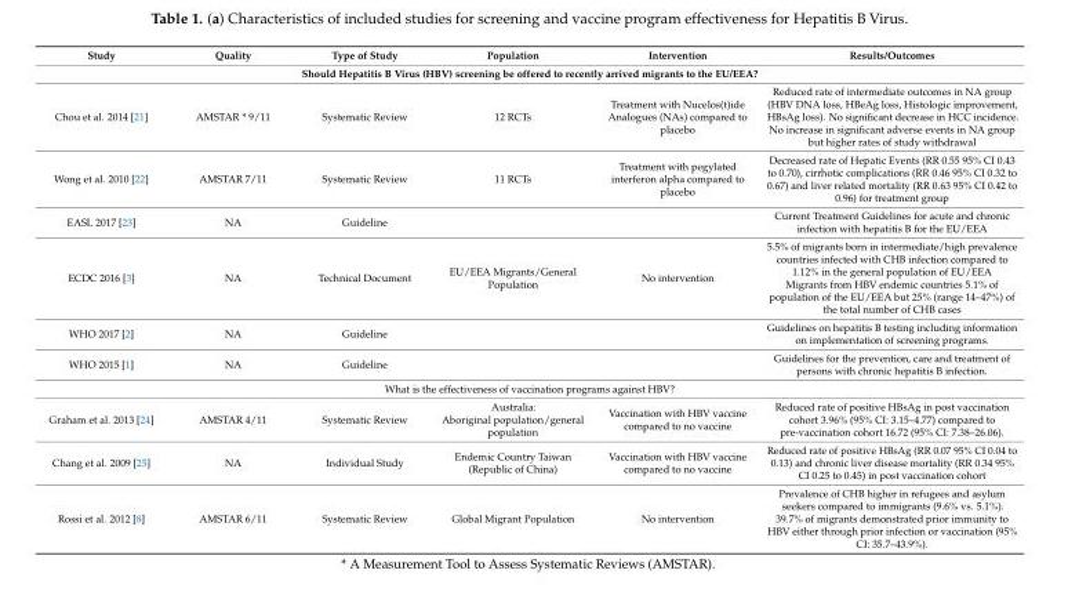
<table><thead><tr><td>Study</td><td>Quality</td><td>Type of Study</td><td>Population</td><td>Intervention</td><td>Results/Outcomes</td></tr></thead><tbody><tr><td colspan="6">Should Hepatitis B Virus (HBV) screening be offered to recently arrived migrants to the EU/EEA?</td></tr><tr><td>Chou et al. 2014 [21]</td><td>AMSTAR * 9/11</td><td>Systematic Review</td><td>12 RCTs</td><td>Treatment with Nucelos(t)ide Analogues (NAs) compared to placebo</td><td>Reduced rate of intermediate outcomes in NA group (HBV DNA loss, HBeAg loss, Histologic improvement, HBsAg loss). No significant decrease in HCC incidence. No increase in significant adverse events in NA group but higher rates of study withdrawal</td></tr><tr><td>Wong et al. 2010 [22]</td><td>AMSTAR 7/11</td><td>Systematic Review</td><td>11 RCTs</td><td>Treatment with pegylated interferon alpha compared to placebo</td><td>Decreased rate of Hepatic Events (RR 0.55 95% CI 0.43 to 0.70), cirrhotic complications (RR 0.46 95% CI 0.32 to 0.67) and liver related mortality (RR 0.63 95% CI 0.42 to 0.96) for treatment group</td></tr><tr><td>EASL 2017 [23]</td><td>NA</td><td>Guideline</td><td></td><td></td><td>Current Treatment Guidelines for acute and chronic infection with hepatitis B for the EU/EEA</td></tr><tr><td>ECDC 2016 [3]</td><td>NA</td><td>Technical Document</td><td>EU/EEA Migrants/General Population</td><td>No intervention</td><td>5.5% of migrants born in intermediate/high prevalence countries infected with CHB infection compared to 1.12% in the general population of EU/EEA Migrants from HBV endemic countries 5.1% of population of the EU/EEA but 25% (range 14–47%) of the total number of CHB cases</td></tr><tr><td>WHO 2017 [2]</td><td>NA</td><td>Guideline</td><td></td><td></td><td>Guidelines on hepatitis B testing including information on implementation of screening programs.</td></tr><tr><td>WHO 2015 [1]</td><td>NA</td><td>Guideline</td><td></td><td></td><td>Guidelines for the prevention, care and treatment of persons with chronic hepatitis B infection.</td></tr><tr><td colspan="6">What is the effectiveness of vaccination programs against HBV?</td></tr><tr><td>Graham et al. 2013 [24]</td><td>AMSTAR 4/11</td><td>Systematic Review</td><td>Australia: Aboriginal population/general population</td><td>Vaccination with HBV vaccine compared to no vaccine</td><td>Reduced rate of positive HBsAg in post vaccination cohort 3.96% (95% CI: 3.15–4.77) compared to pre-vaccination cohort 16.72 (95% CI: 7.38–26.06).</td></tr><tr><td>Chang et al. 2009 [25]</td><td>NA</td><td>Individual Study</td><td>Endemic Country Taiwan (Republic of China)</td><td>Vaccination with HBV vaccine compared to no vaccine</td><td>Reduced rate of positive HBsAg (RR 0.07 95% CI 0.04 to 0.13) and chronic liver disease mortality (RR 0.34 95% CI 0.25 to 0.45) in post vaccination cohort</td></tr><tr><td>Rossi et al. 2012 [8]</td><td>AMSTAR 6/11</td><td>Systematic Review</td><td>Global Migrant Population</td><td>No intervention</td><td>Prevalence of CHB higher in refugees and asylum seekers compared to immigrants (9.6% vs. 5.1%). 39.7% of migrants demonstrated prior immunity to HBV either through prior infection or vaccination (95% CI: 35.7–43.9%).</td></tr></tbody></table>